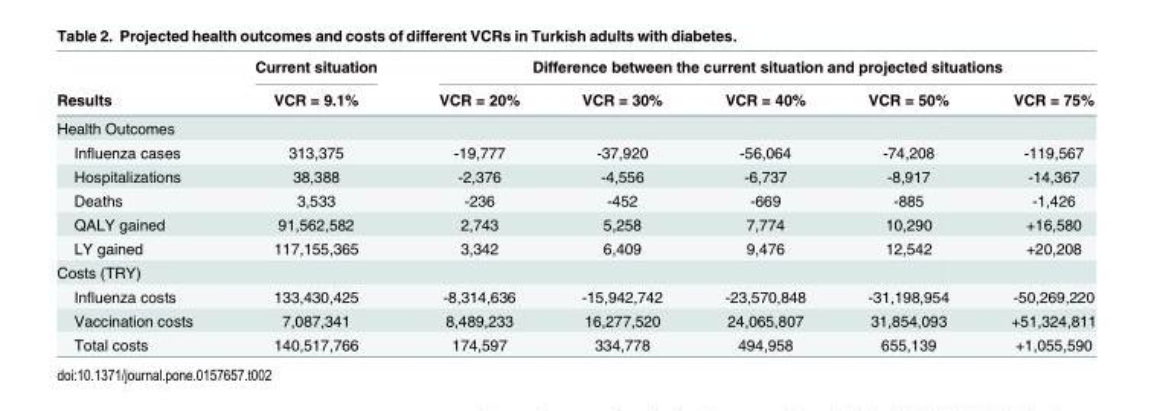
<table><thead><tr><td rowspan="2">Results</td><td rowspan="2">Current situation VCR = 9.1%</td><td colspan="5">Difference between the current situation and projected situations</td></tr><tr><td>VCR = 20%</td><td>VCR = 30%</td><td>VCR = 40%</td><td>VCR = 50%</td><td>VCR = 75%</td></tr></thead><tbody><tr><td colspan="7">Health Outcomes</td></tr><tr><td>Influenza cases</td><td>313,375</td><td>-19,777</td><td>-37,920</td><td>-56,064</td><td>-74,208</td><td>-119,567</td></tr><tr><td>Hospitalizations</td><td>38,388</td><td>-2,376</td><td>-4,556</td><td>-6,737</td><td>-8,917</td><td>-14,367</td></tr><tr><td>Deaths</td><td>3,533</td><td>-236</td><td>-452</td><td>-669</td><td>-885</td><td>-1,426</td></tr><tr><td>QALY gained</td><td>91,562,582</td><td>2,743</td><td>5,258</td><td>7,774</td><td>10,290</td><td>+16,580</td></tr><tr><td>LY gained</td><td>117,155,365</td><td>3,342</td><td>6,409</td><td>9,476</td><td>12,542</td><td>+20,208</td></tr><tr><td colspan="7">Costs (TRY)</td></tr><tr><td>Influenza costs</td><td>133,430,425</td><td>-8,314,636</td><td>-15,942,742</td><td>-23,570,848</td><td>-31,198,954</td><td>-50,269,220</td></tr><tr><td>Vaccination costs</td><td>7,087,341</td><td>8,489,233</td><td>16,277,520</td><td>24,065,807</td><td>31,854,093</td><td>+51,324,811</td></tr><tr><td>Total costs</td><td>140,517,766</td><td>174,597</td><td>334,778</td><td>494,958</td><td>655,139</td><td>+1,055,590</td></tr></tbody></table>